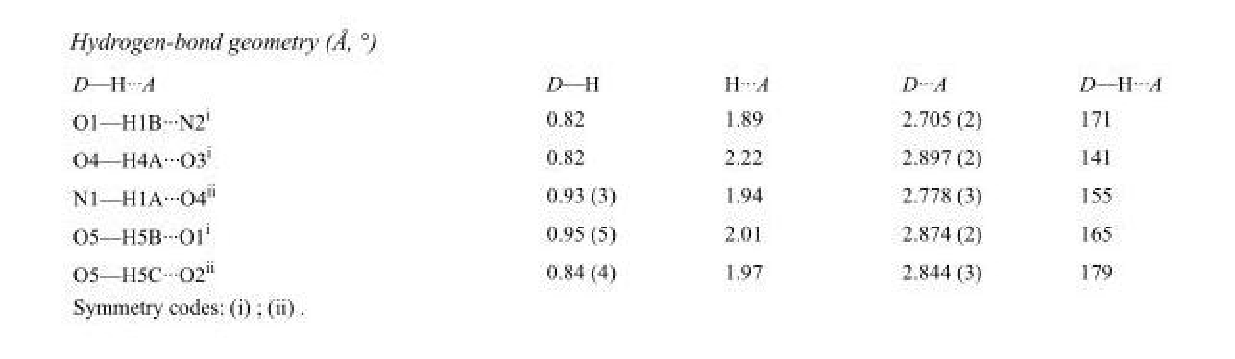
<table><tbody><tr><td>D—H···A</td><td>D—H</td><td>H···A</td><td>D···A</td><td>D—H···A</td></tr><tr><td>O1—H1B···N2<sup>i</sup></td><td>0.82</td><td>1.89</td><td>2.705 (2)</td><td>171</td></tr><tr><td>O4—H4A···O3<sup>i</sup></td><td>0.82</td><td>2.22</td><td>2.897 (2)</td><td>141</td></tr><tr><td>N1—H1A···O4<sup>ii</sup></td><td>0.93 (3)</td><td>1.94</td><td>2.778 (3)</td><td>155</td></tr><tr><td>O5—H5B···O1<sup>i</sup></td><td>0.95 (5)</td><td>2.01</td><td>2.874 (2)</td><td>165</td></tr><tr><td>O5—H5C···O2<sup>ii</sup></td><td>0.84 (4)</td><td>1.97</td><td>2.844 (3)</td><td>179</td></tr></tbody></table>